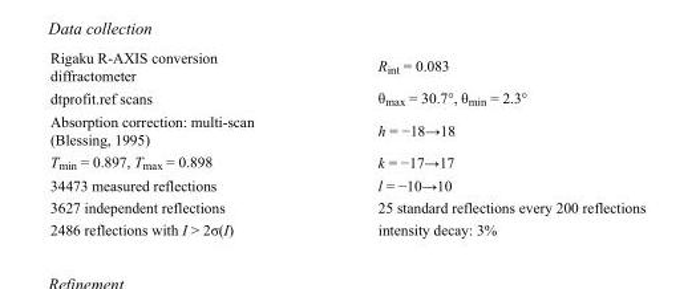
<table><tbody><tr><td>Rigaku R-AXIS conversion diffractometer</td><td>R<sub>int</sub> = 0.083</td></tr><tr><td>dtprofit.ref scans</td><td>θ<sub>max</sub> = 30.7°, θ<sub>min</sub> = 2.3°</td></tr><tr><td>Absorption correction: multi-scan (Blessing, 1995)</td><td>h = −18→18</td></tr><tr><td>T<sub>min</sub> = 0.897, T<sub>max</sub> = 0.898</td><td>k = −17→17</td></tr><tr><td>34473 measured reflections</td><td>l = −10→10</td></tr><tr><td>3627 independent reflections</td><td>25 standard reflections every 200 reflections</td></tr><tr><td>2486 reflections with I &gt; 2σ(I)</td><td>intensity decay: 3%</td></tr></tbody></table>